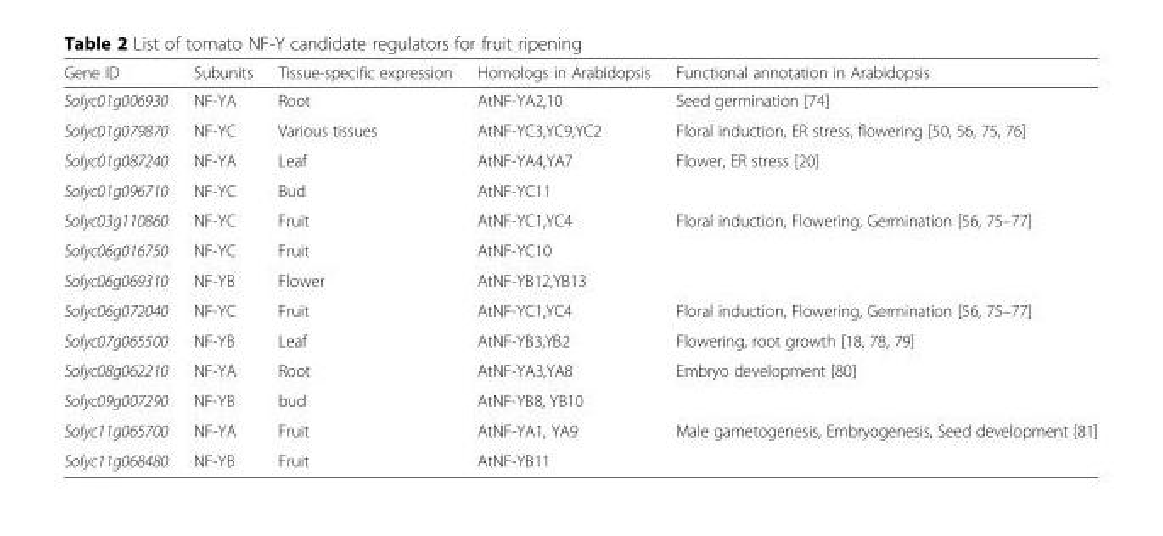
<table><thead><tr><td>Gene ID</td><td>Subunits</td><td>Tissue-specific expression</td><td>Homologs in Arabidopsis</td><td>Functional annotation in Arabidopsis</td></tr></thead><tbody><tr><td>Solyc01g006930</td><td>NF-YA</td><td>Root</td><td>AtNF-YA2,10</td><td>Seed germination [74]</td></tr><tr><td>Solyc01g079870</td><td>NF-YC</td><td>Various tissues</td><td>AtNF-YC3,YC9,YC2</td><td>Floral induction, ER stress, flowering [50, 56, 75, 76]</td></tr><tr><td>Solyc01g087240</td><td>NF-YA</td><td>Leaf</td><td>AtNF-YA4,YA7</td><td>Flower, ER stress [20]</td></tr><tr><td>Solyc01g096710</td><td>NF-YC</td><td>Bud</td><td>AtNF-YC11</td><td></td></tr><tr><td>Solyc03g110860</td><td>NF-YC</td><td>Fruit</td><td>AtNF-YC1,YC4</td><td>Floral induction, Flowering, Germination [56, 75–77]</td></tr><tr><td>Solyc06g016750</td><td>NF-YC</td><td>Fruit</td><td>AtNF-YC10</td><td></td></tr><tr><td>Solyc06g069310</td><td>NF-YB</td><td>Flower</td><td>AtNF-YB12,YB13</td><td></td></tr><tr><td>Solyc06g072040</td><td>NF-YC</td><td>Fruit</td><td>AtNF-YC1,YC4</td><td>Floral induction, Flowering, Germination [56, 75–77]</td></tr><tr><td>Solyc07g065500</td><td>NF-YB</td><td>Leaf</td><td>AtNF-YB3,YB2</td><td>Flowering, root growth [18, 78, 79]</td></tr><tr><td>Solyc08g062210</td><td>NF-YA</td><td>Root</td><td>AtNF-YA3,YA8</td><td>Embryo development [80]</td></tr><tr><td>Solyc09g007290</td><td>NF-YB</td><td>bud</td><td>AtNF-YB8, YB10</td><td></td></tr><tr><td>Solyc11g065700</td><td>NF-YA</td><td>Fruit</td><td>AtNF-YA1, YA9</td><td>Male gametogenesis, Embryogenesis, Seed development [81]</td></tr><tr><td>Solyc11g068480</td><td>NF-YB</td><td>Fruit</td><td>AtNF-YB11</td><td></td></tr></tbody></table>